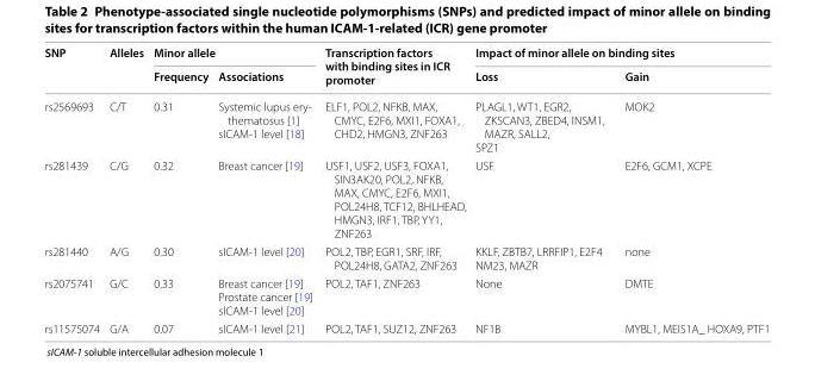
<table><thead><tr><td rowspan="2">SNP</td><td rowspan="2">Alleles</td><td colspan="2">Minor allele</td><td rowspan="2">Transcription factors with binding sites in ICR promoter</td><td colspan="2">Impact of minor allele on binding sites</td></tr><tr><td>Frequency</td><td>Associations</td><td>Loss</td><td>Gain</td></tr></thead><tbody><tr><td>rs2569693</td><td>C/T</td><td>0.31</td><td>Systemic lupus ery- thematosus [1] sICAM-1 level [18]</td><td>ELF1, POL2, NFKB, MAX, CMYC, E2F6, MXI1, FOXA1, CHD2, HMGN3, ZNF263</td><td>PLAGL1, WT1, EGR2, ZKSCAN3, ZBED4, INSM1, MAZR, SALL2, SPZ1</td><td>MOK2</td></tr><tr><td>rs281439</td><td>C/G</td><td>0.32</td><td>Breast cancer [19]</td><td>USF1, USF2, USF3, FOXA1, SIN3AK20, POL2, NFKB, MAX, CMYC, E2F6, MXI1, POL24H8, TCF12, BHLHEAD, HMGN3, IRF1, TBP, YY1, ZNF263</td><td>USF</td><td>E2F6, GCM1, XCPE</td></tr><tr><td>rs281440</td><td>A/G</td><td>0.30</td><td>sICAM-1 level [20]</td><td>POL2, TBP, EGR1, SRF, IRF, POL24H8, GATA2, ZNF263</td><td>KKLF, ZBTB7, LRRFIP1, E2F4 NM23, MAZR</td><td>none</td></tr><tr><td>rs2075741</td><td>G/C</td><td>0.33</td><td>Breast cancer [19] Prostate cancer [19] sICAM-1 level [20]</td><td>POL2, TAF1, ZNF263</td><td>None</td><td>DMTE</td></tr><tr><td>rs11575074</td><td>G/A</td><td>0.07</td><td>sICAM-1 level [21]</td><td>POL2, TAF1, SUZ12, ZNF263</td><td>NF1B</td><td>MYBL1, MEIS1A_ HOXA9, PTF1</td></tr></tbody></table>